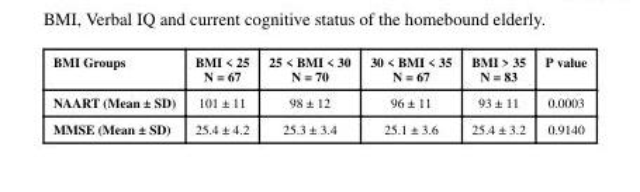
<table><thead><tr><td>BMI Groups</td><td>BMI &lt; 25 N = 67</td><td>25 &lt; BMI &lt; 30 N = 70</td><td>30 &lt; BMI &lt; 35 N = 67</td><td>BMI &gt; 35 N = 83</td><td>P value</td></tr></thead><tbody><tr><td>NAART (Mean ± SD)</td><td>101 ± 11</td><td>98 ± 12</td><td>96 ± 11</td><td>93 ± 11</td><td>0.0003</td></tr><tr><td>MMSE (Mean ± SD)</td><td>25.4 ± 4.2</td><td>25.3 ± 3.4</td><td>25.1 ± 3.6</td><td>25.4 ± 3.2</td><td>0.9140</td></tr></tbody></table>